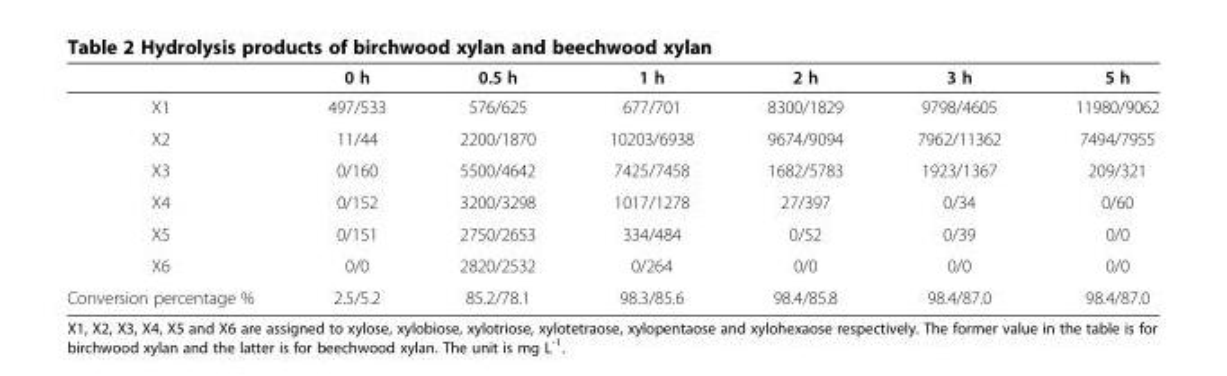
<table><thead><tr><td></td><td>0 h</td><td>0.5 h</td><td>1 h</td><td>2 h</td><td>3 h</td><td>5 h</td></tr></thead><tbody><tr><td>X1</td><td>497/533</td><td>576/625</td><td>677/701</td><td>8300/1829</td><td>9798/4605</td><td>11980/9062</td></tr><tr><td>X2</td><td>11/44</td><td>2200/1870</td><td>10203/6938</td><td>9674/9094</td><td>7962/11362</td><td>7494/7955</td></tr><tr><td>X3</td><td>0/160</td><td>5500/4642</td><td>7425/7458</td><td>1682/5783</td><td>1923/1367</td><td>209/321</td></tr><tr><td>X4</td><td>0/152</td><td>3200/3298</td><td>1017/1278</td><td>27/397</td><td>0/34</td><td>0/60</td></tr><tr><td>X5</td><td>0/151</td><td>2750/2653</td><td>334/484</td><td>0/52</td><td>0/39</td><td>0/0</td></tr><tr><td>X6</td><td>0/0</td><td>2820/2532</td><td>0/264</td><td>0/0</td><td>0/0</td><td>0/0</td></tr><tr><td>Conversion percentage %</td><td>2.5/5.2</td><td>85.2/78.1</td><td>98.3/85.6</td><td>98.4/85.8</td><td>98.4/87.0</td><td>98.4/87.0</td></tr></tbody></table>